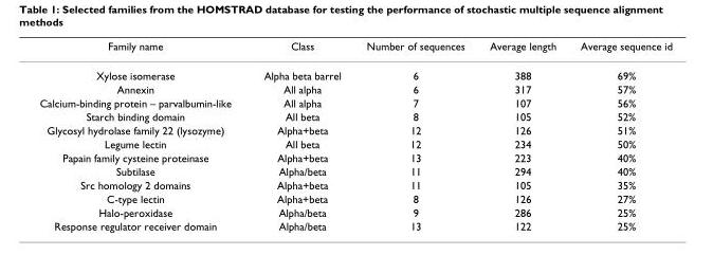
<table><thead><tr><td>Family name</td><td>Class</td><td>Number of sequences</td><td>Average length</td><td>Average sequence id</td></tr></thead><tbody><tr><td>Xylose isomerase</td><td>Alpha beta barrel</td><td>6</td><td>388</td><td>69%</td></tr><tr><td>Annexin</td><td>All alpha</td><td>6</td><td>317</td><td>57%</td></tr><tr><td>Calcium-binding protein – parvalbumin-like</td><td>All alpha</td><td>7</td><td>107</td><td>56%</td></tr><tr><td>Starch binding domain</td><td>All beta</td><td>8</td><td>105</td><td>52%</td></tr><tr><td>Glycosyl hydrolase family 22 (lysozyme)</td><td>Alpha+beta</td><td>12</td><td>126</td><td>51%</td></tr><tr><td>Legume lectin</td><td>All beta</td><td>12</td><td>234</td><td>50%</td></tr><tr><td>Papain family cysteine proteinase</td><td>Alpha+beta</td><td>13</td><td>223</td><td>40%</td></tr><tr><td>Subtilase</td><td>Alpha/beta</td><td>11</td><td>294</td><td>40%</td></tr><tr><td>Src homology 2 domains</td><td>Alpha+beta</td><td>11</td><td>105</td><td>35%</td></tr><tr><td>C-type lectin</td><td>Alpha+beta</td><td>8</td><td>126</td><td>27%</td></tr><tr><td>Halo-peroxidase</td><td>Alpha/beta</td><td>9</td><td>286</td><td>25%</td></tr><tr><td>Response regulator receiver domain</td><td>Alpha/beta</td><td>13</td><td>122</td><td>25%</td></tr></tbody></table>